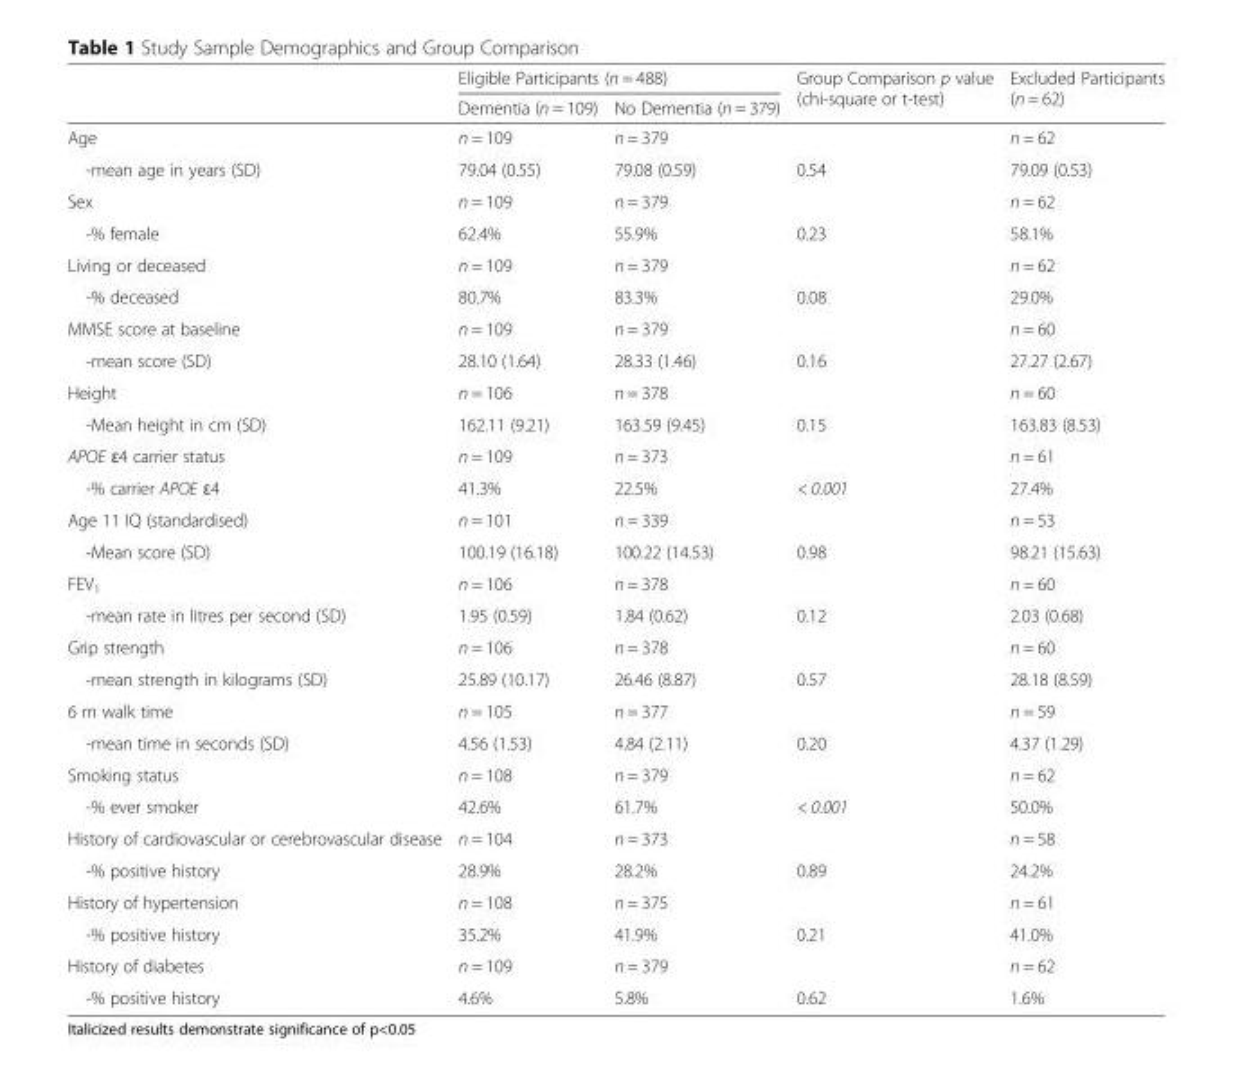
<table><thead><tr><td rowspan="2"></td><td colspan="2">Eligible Participants (n = 488)</td><td rowspan="2">Group Comparison p value (chi-square or t-test)</td><td rowspan="2">Excluded Participants (n = 62)</td></tr><tr><td>Dementia (n = 109)</td><td>No Dementia (n = 379)</td></tr></thead><tbody><tr><td>Age</td><td>n = 109</td><td>n = 379</td><td></td><td>n = 62</td></tr><tr><td>-mean age in years (SD)</td><td>79.04 (0.55)</td><td>79.08 (0.59)</td><td>0.54</td><td>79.09 (0.53)</td></tr><tr><td>Sex</td><td>n = 109</td><td>n = 379</td><td></td><td>n = 62</td></tr><tr><td>-% female</td><td>62.4%</td><td>55.9%</td><td>0.23</td><td>58.1%</td></tr><tr><td>Living or deceased</td><td>n = 109</td><td>n = 379</td><td></td><td>n = 62</td></tr><tr><td>-% deceased</td><td>80.7%</td><td>83.3%</td><td>0.08</td><td>29.0%</td></tr><tr><td>MMSE score at baseline</td><td>n = 109</td><td>n = 379</td><td></td><td>n = 60</td></tr><tr><td>-mean score (SD)</td><td>28.10 (1.64)</td><td>28.33 (1.46)</td><td>0.16</td><td>27.27 (2.67)</td></tr><tr><td>Height</td><td>n = 106</td><td>n = 378</td><td></td><td>n = 60</td></tr><tr><td>-Mean height in cm (SD)</td><td>162.11 (9.21)</td><td>163.59 (9.45)</td><td>0.15</td><td>163.83 (8.53)</td></tr><tr><td>APOE ɛ4 carrier status</td><td>n = 109</td><td>n = 373</td><td></td><td>n = 61</td></tr><tr><td>-% carrier APOE ɛ4</td><td>41.3%</td><td>22.5%</td><td>&lt; 0.001</td><td>27.4%</td></tr><tr><td>Age 11 IQ (standardised)</td><td>n = 101</td><td>n = 339</td><td></td><td>n = 53</td></tr><tr><td>-Mean score (SD)</td><td>100.19 (16.18)</td><td>100.22 (14.53)</td><td>0.98</td><td>98.21 (15.63)</td></tr><tr><td>FEV<sub>1</sub></td><td>n = 106</td><td>n = 378</td><td></td><td>n = 60</td></tr><tr><td>-mean rate in litres per second (SD)</td><td>1.95 (0.59)</td><td>1.84 (0.62)</td><td>0.12</td><td>2.03 (0.68)</td></tr><tr><td>Grip strength</td><td>n = 106</td><td>n = 378</td><td></td><td>n = 60</td></tr><tr><td>-mean strength in kilograms (SD)</td><td>25.89 (10.17)</td><td>26.46 (8.87)</td><td>0.57</td><td>28.18 (8.59)</td></tr><tr><td>6 m walk time</td><td>n = 105</td><td>n = 377</td><td></td><td>n = 59</td></tr><tr><td>-mean time in seconds (SD)</td><td>4.56 (1.53)</td><td>4.84 (2.11)</td><td>0.20</td><td>4.37 (1.29)</td></tr><tr><td>Smoking status</td><td>n = 108</td><td>n = 379</td><td></td><td>n = 62</td></tr><tr><td>-% ever smoker</td><td>42.6%</td><td>61.7%</td><td>&lt; 0.001</td><td>50.0%</td></tr><tr><td>History of cardiovascular or cerebrovascular disease</td><td>n = 104</td><td>n = 373</td><td></td><td>n = 58</td></tr><tr><td>-% positive history</td><td>28.9%</td><td>28.2%</td><td>0.89</td><td>24.2%</td></tr><tr><td>History of hypertension</td><td>n = 108</td><td>n = 375</td><td></td><td>n = 61</td></tr><tr><td>-% positive history</td><td>35.2%</td><td>41.9%</td><td>0.21</td><td>41.0%</td></tr><tr><td>History of diabetes</td><td>n = 109</td><td>n = 379</td><td></td><td>n = 62</td></tr><tr><td>-% positive history</td><td>4.6%</td><td>5.8%</td><td>0.62</td><td>1.6%</td></tr></tbody></table>